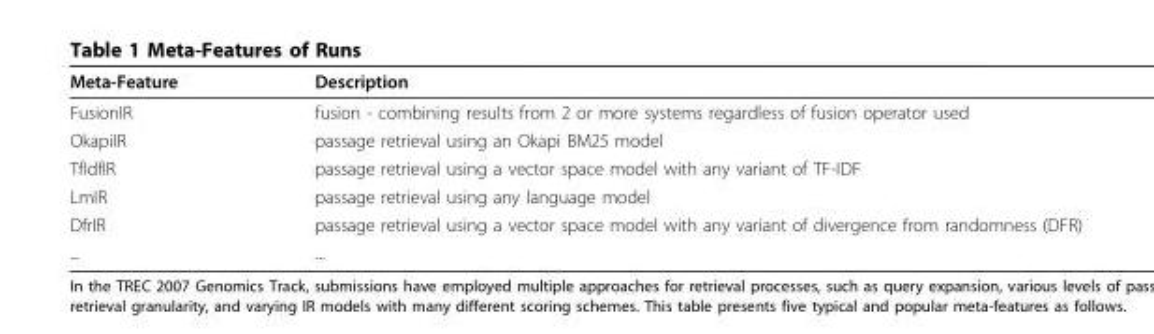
<table><thead><tr><td>Meta-Feature</td><td>Description</td></tr></thead><tbody><tr><td>FusionIR</td><td>fusion - combining results from 2 or more systems regardless of fusion operator used</td></tr><tr><td>OkapiIR</td><td>passage retrieval using an Okapi BM25 model</td></tr><tr><td>TfIdfIR</td><td>passage retrieval using a vector space model with any variant of TF-IDF</td></tr><tr><td>LmIR</td><td>passage retrieval using any language model</td></tr><tr><td>DfrIR</td><td>passage retrieval using a vector space model with any variant of divergence from randomness (DFR)</td></tr><tr><td>...</td><td>...</td></tr></tbody></table>